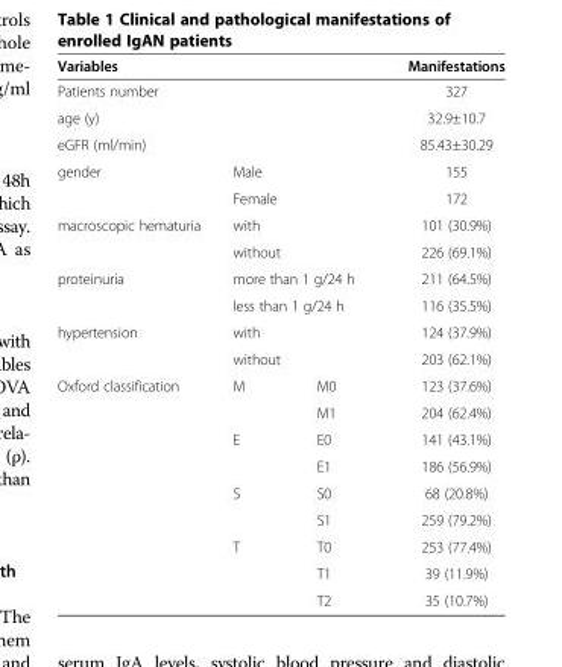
<table><thead><tr><td colspan="3">Variables</td><td>Manifestations</td></tr></thead><tbody><tr><td colspan="3">Patients number</td><td>327</td></tr><tr><td colspan="3">age (y)</td><td>32.9±10.7</td></tr><tr><td colspan="3">eGFR (ml/min)</td><td>85.43±30.29</td></tr><tr><td rowspan="2">gender</td><td colspan="2">Male</td><td>155</td></tr><tr><td colspan="2">Female</td><td>172</td></tr><tr><td rowspan="2">macroscopic hematuria</td><td colspan="2">with</td><td>101 (30.9%)</td></tr><tr><td colspan="2">without</td><td>226 (69.1%)</td></tr><tr><td rowspan="2">proteinuria</td><td colspan="2">more than 1 g/24 h</td><td>211 (64.5%)</td></tr><tr><td colspan="2">less than 1 g/24 h</td><td>116 (35.5%)</td></tr><tr><td rowspan="2">hypertension</td><td colspan="2">with</td><td>124 (37.9%)</td></tr><tr><td colspan="2">without</td><td>203 (62.1%)</td></tr><tr><td rowspan="9">Oxford classification</td><td>M</td><td>M0</td><td>123 (37.6%)</td></tr><tr><td></td><td>M1</td><td>204 (62.4%)</td></tr><tr><td>E</td><td>E0</td><td>141 (43.1%)</td></tr><tr><td></td><td>E1</td><td>186 (56.9%)</td></tr><tr><td>S</td><td>S0</td><td>68 (20.8%)</td></tr><tr><td></td><td>S1</td><td>259 (79.2%)</td></tr><tr><td>T</td><td>T0</td><td>253 (77.4%)</td></tr><tr><td></td><td>T1</td><td>39 (11.9%)</td></tr><tr><td></td><td>T2</td><td>35 (10.7%)</td></tr></tbody></table>